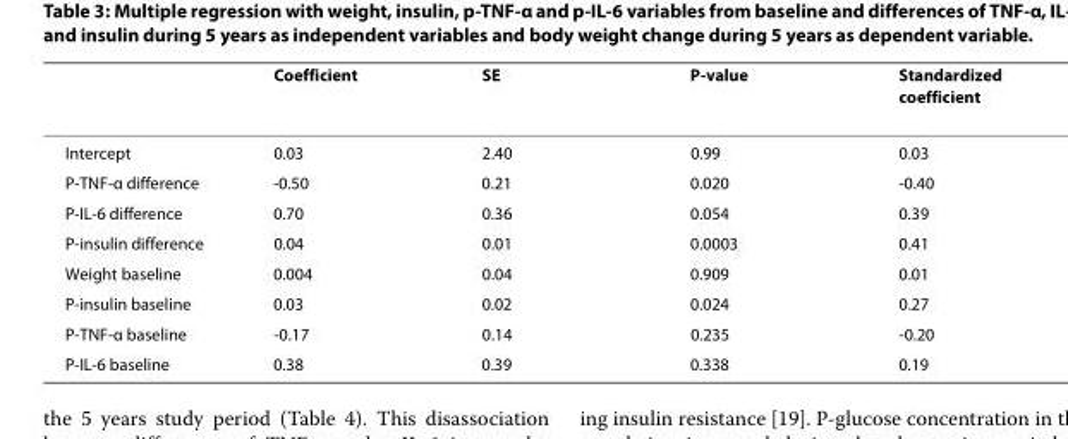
<table><thead><tr><td></td><td>Coefficient</td><td>SE</td><td>P-value</td><td>Standardized coefficient</td></tr></thead><tbody><tr><td>Intercept</td><td>0.03</td><td>2.40</td><td>0.99</td><td>0.03</td></tr><tr><td>P-TNF-α difference</td><td>-0.50</td><td>0.21</td><td>0.020</td><td>-0.40</td></tr><tr><td>P-IL-6 difference</td><td>0.70</td><td>0.36</td><td>0.054</td><td>0.39</td></tr><tr><td>P-insulin difference</td><td>0.04</td><td>0.01</td><td>0.0003</td><td>0.41</td></tr><tr><td>Weight baseline</td><td>0.004</td><td>0.04</td><td>0.909</td><td>0.01</td></tr><tr><td>P-insulin baseline</td><td>0.03</td><td>0.02</td><td>0.024</td><td>0.27</td></tr><tr><td>P-TNF-α baseline</td><td>-0.17</td><td>0.14</td><td>0.235</td><td>-0.20</td></tr><tr><td>P-IL-6 baseline</td><td>0.38</td><td>0.39</td><td>0.338</td><td>0.19</td></tr></tbody></table>